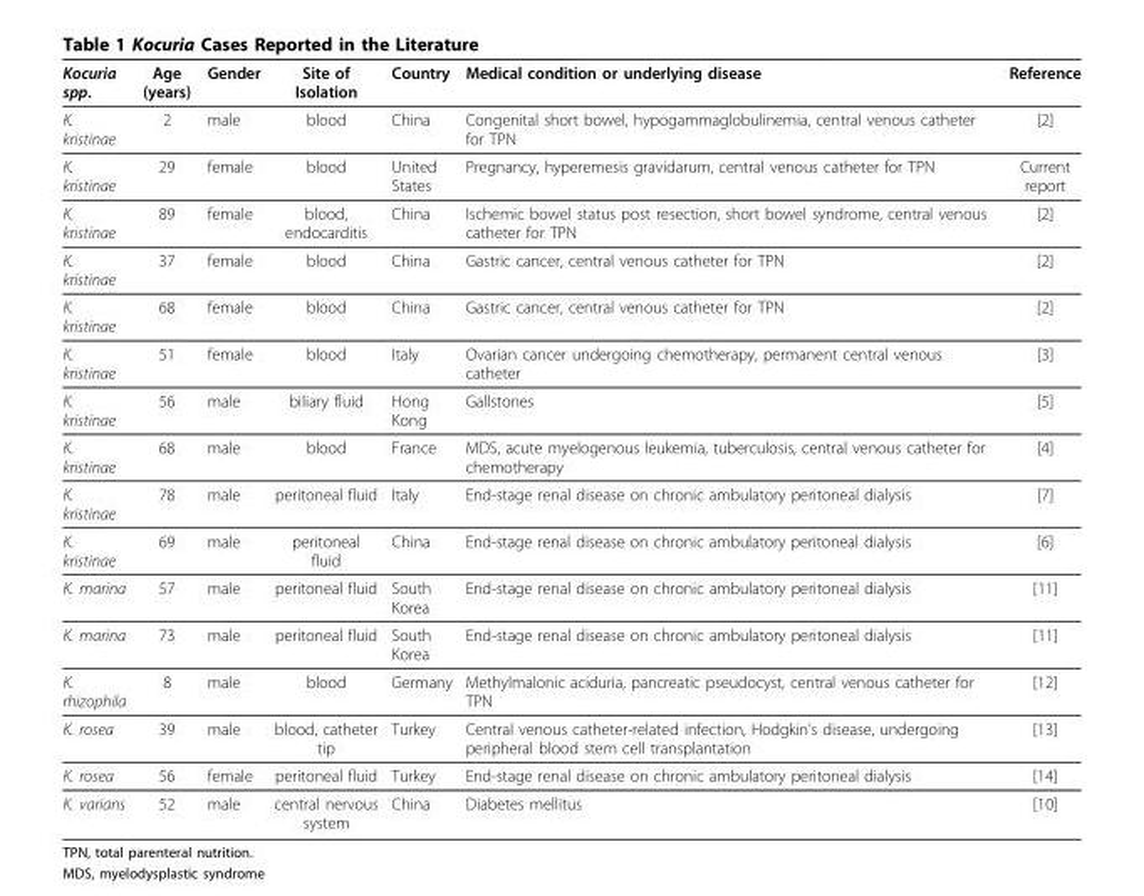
<table><thead><tr><td>Kocuria spp.</td><td>Age (years)</td><td>Gender</td><td>Site of Isolation</td><td>Country</td><td>Medical condition or underlying disease</td><td>Reference</td></tr></thead><tbody><tr><td>K. kristinae</td><td>2</td><td>male</td><td>blood</td><td>China</td><td>Congenital short bowel, hypogammaglobulinemia, central venous catheter for TPN</td><td>[2]</td></tr><tr><td>K. kristinae</td><td>29</td><td>female</td><td>blood</td><td>United States</td><td>Pregnancy, hyperemesis gravidarum, central venous catheter for TPN</td><td>Current report</td></tr><tr><td>K. kristinae</td><td>89</td><td>female</td><td>blood, endocarditis</td><td>China</td><td>Ischemic bowel status post resection, short bowel syndrome, central venous catheter for TPN</td><td>[2]</td></tr><tr><td>K. kristinae</td><td>37</td><td>female</td><td>blood</td><td>China</td><td>Gastric cancer, central venous catheter for TPN</td><td>[2]</td></tr><tr><td>K. kristinae</td><td>68</td><td>female</td><td>blood</td><td>China</td><td>Gastric cancer, central venous catheter for TPN</td><td>[2]</td></tr><tr><td>K. kristinae</td><td>51</td><td>female</td><td>blood</td><td>Italy</td><td>Ovarian cancer undergoing chemotherapy, permanent central venous catheter</td><td>[3]</td></tr><tr><td>K. kristinae</td><td>56</td><td>male</td><td>biliary fluid</td><td>Hong Kong</td><td>Gallstones</td><td>[5]</td></tr><tr><td>K. kristinae</td><td>68</td><td>male</td><td>blood</td><td>France</td><td>MDS, acute myelogenous leukemia, tuberculosis, central venous catheter for chemotherapy</td><td>[4]</td></tr><tr><td>K. kristinae</td><td>78</td><td>male</td><td>peritoneal fluid</td><td>Italy</td><td>End-stage renal disease on chronic ambulatory peritoneal dialysis</td><td>[7]</td></tr><tr><td>K. kristinae</td><td>69</td><td>male</td><td>peritoneal fluid</td><td>China</td><td>End-stage renal disease on chronic ambulatory peritoneal dialysis</td><td>[6]</td></tr><tr><td>K. marina</td><td>57</td><td>male</td><td>peritoneal fluid</td><td>South Korea</td><td>End-stage renal disease on chronic ambulatory peritoneal dialysis</td><td>[11]</td></tr><tr><td>K. marina</td><td>73</td><td>male</td><td>peritoneal fluid</td><td>South Korea</td><td>End-stage renal disease on chronic ambulatory peritoneal dialysis</td><td>[11]</td></tr><tr><td>K. rhizophila</td><td>8</td><td>male</td><td>blood</td><td>Germany</td><td>Methylmalonic aciduria, pancreatic pseudocyst, central venous catheter for TPN</td><td>[12]</td></tr><tr><td>K. rosea</td><td>39</td><td>male</td><td>blood, catheter tip</td><td>Turkey</td><td>Central venous catheter-related infection, Hodgkin’s disease, undergoing peripheral blood stem cell transplantation</td><td>[13]</td></tr><tr><td>K. rosea</td><td>56</td><td>female</td><td>peritoneal fluid</td><td>Turkey</td><td>End-stage renal disease on chronic ambulatory peritoneal dialysis</td><td>[14]</td></tr><tr><td>K. varians</td><td>52</td><td>male</td><td>central nervous system</td><td>China</td><td>Diabetes mellitus</td><td>[10]</td></tr></tbody></table>